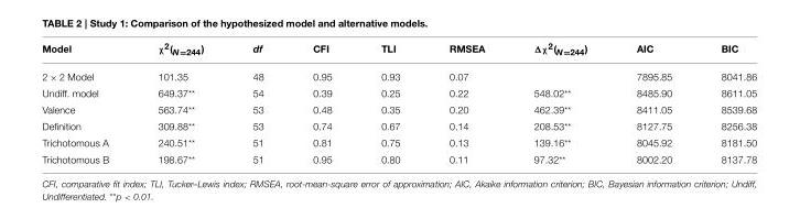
<table><thead><tr><td>Model</td><td>χ<sup>2</sup>(<sub>N=244</sub>)</td><td>df</td><td>CFI</td><td>TLI</td><td>RMSEA</td><td>Δχ<sup>2</sup>(<sub>N=244</sub>)</td><td>AIC</td><td>BIC</td></tr></thead><tbody><tr><td>2 × 2 Model</td><td>101.35</td><td>48</td><td>0.95</td><td>0.93</td><td>0.07</td><td></td><td>7895.85</td><td>8041.86</td></tr><tr><td>Undiff. model</td><td>649.37**</td><td>54</td><td>0.39</td><td>0.25</td><td>0.22</td><td>548.02**</td><td>8485.90</td><td>8611.05</td></tr><tr><td>Valence</td><td>563.74**</td><td>53</td><td>0.48</td><td>0.35</td><td>0.20</td><td>462.39**</td><td>8411.05</td><td>8539.68</td></tr><tr><td>Definition</td><td>309.88**</td><td>53</td><td>0.74</td><td>0.67</td><td>0.14</td><td>208.53**</td><td>8127.75</td><td>8256.38</td></tr><tr><td>Trichotomous A</td><td>240.51**</td><td>51</td><td>0.81</td><td>0.75</td><td>0.13</td><td>139.16**</td><td>8045.92</td><td>8181.50</td></tr><tr><td>Trichotomous B</td><td>198.67**</td><td>51</td><td>0.95</td><td>0.80</td><td>0.11</td><td>97.32**</td><td>8002.20</td><td>8137.78</td></tr></tbody></table>